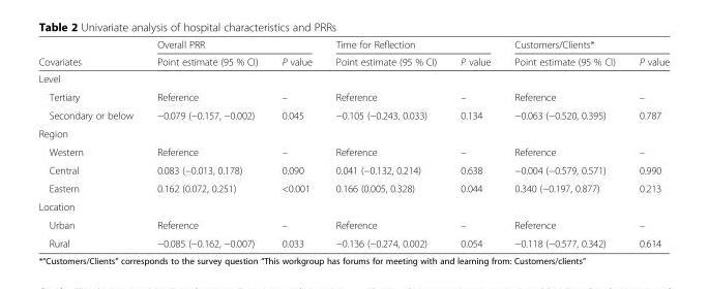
<table><thead><tr><td rowspan="2">Covariates</td><td colspan="2">Overall PRR</td><td colspan="2">Time for Reflection</td><td colspan="2">Customers/Clients*</td></tr><tr><td>Point estimate (95 % CI)</td><td>P value</td><td>Point estimate (95 % CI)</td><td>P value</td><td>Point estimate (95 % CI)</td><td>P value</td></tr></thead><tbody><tr><td colspan="7">Level</td></tr><tr><td>Tertiary</td><td>Reference</td><td>–</td><td>Reference</td><td>–</td><td>Reference</td><td>–</td></tr><tr><td>Secondary or below</td><td>−0.079 (−0.157, −0.002)</td><td>0.045</td><td>−0.105 (−0.243, 0.033)</td><td>0.134</td><td>−0.063 (−0.520, 0.395)</td><td>0.787</td></tr><tr><td colspan="7">Region</td></tr><tr><td>Western</td><td>Reference</td><td>–</td><td>Reference</td><td>–</td><td>Reference</td><td>–</td></tr><tr><td>Central</td><td>0.083 (−0.013, 0.178)</td><td>0.090</td><td>0.041 (−0.132, 0.214)</td><td>0.638</td><td>−0.004 (−0.579, 0.571)</td><td>0.990</td></tr><tr><td>Eastern</td><td>0.162 (0.072, 0.251)</td><td>&lt;0.001</td><td>0.166 (0.005, 0.328)</td><td>0.044</td><td>0.340 (−0.197, 0.877)</td><td>0.213</td></tr><tr><td colspan="7">Location</td></tr><tr><td>Urban</td><td>Reference</td><td>–</td><td>Reference</td><td>–</td><td>Reference</td><td>–</td></tr><tr><td>Rural</td><td>−0.085 (−0.162, −0.007)</td><td>0.033</td><td>−0.136 (−0.274, 0.002)</td><td>0.054</td><td>−0.118 (−0.577, 0.342)</td><td>0.614</td></tr></tbody></table>